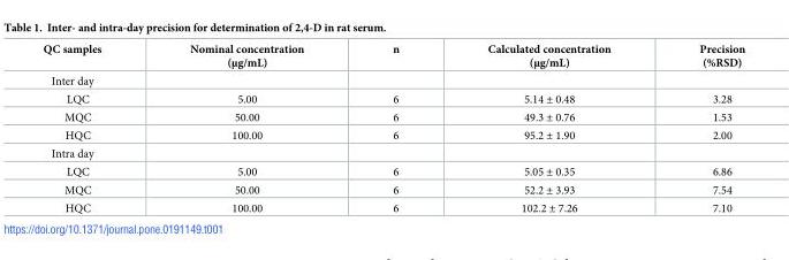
<table><thead><tr><td>QC samples</td><td>Nominal concentration (μg/mL)</td><td>n</td><td>Calculated concentration (μg/mL)</td><td>Precision (%RSD)</td></tr></thead><tbody><tr><td colspan="5">Inter day</td></tr><tr><td>LQC</td><td>5.00</td><td>6</td><td>5.14 ± 0.48</td><td>3.28</td></tr><tr><td>MQC</td><td>50.00</td><td>6</td><td>49.3 ± 0.76</td><td>1.53</td></tr><tr><td>HQC</td><td>100.00</td><td>6</td><td>95.2 ± 1.90</td><td>2.00</td></tr><tr><td colspan="5">Intra day</td></tr><tr><td>LQC</td><td>5.00</td><td>6</td><td>5.05 ± 0.35</td><td>6.86</td></tr><tr><td>MQC</td><td>50.00</td><td>6</td><td>52.2 ± 3.93</td><td>7.54</td></tr><tr><td>HQC</td><td>100.00</td><td>6</td><td>102.2 ± 7.26</td><td>7.10</td></tr></tbody></table>